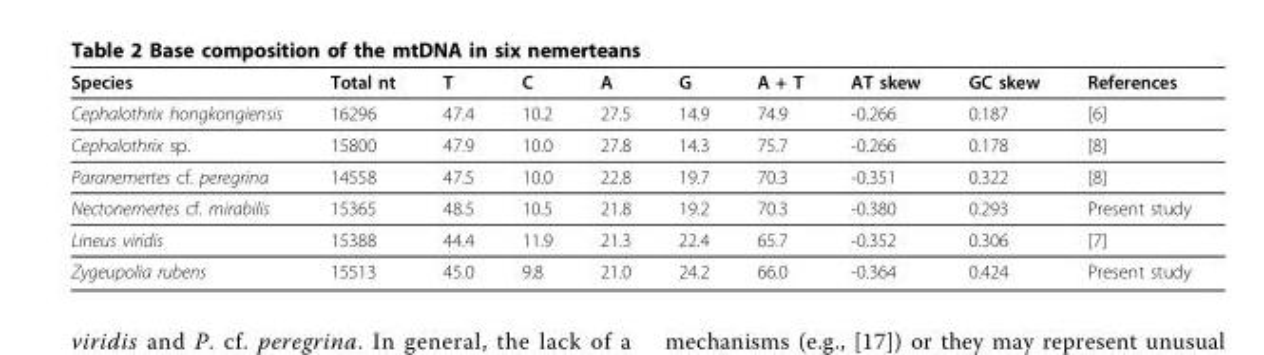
<table><thead><tr><td>Species</td><td>Total nt</td><td>T</td><td>C</td><td>A</td><td>G</td><td>A + T</td><td>AT skew</td><td>GC skew</td><td>References</td></tr></thead><tbody><tr><td>Cephalothrix hongkongiensis</td><td>16296</td><td>47.4</td><td>10.2</td><td>27.5</td><td>14.9</td><td>74.9</td><td>-0.266</td><td>0.187</td><td>[6]</td></tr><tr><td>Cephalothrix sp.</td><td>15800</td><td>47.9</td><td>10.0</td><td>27.8</td><td>14.3</td><td>75.7</td><td>-0.266</td><td>0.178</td><td>[8]</td></tr><tr><td>Paranemertes cf. peregrina</td><td>14558</td><td>47.5</td><td>10.0</td><td>22.8</td><td>19.7</td><td>70.3</td><td>-0.351</td><td>0.322</td><td>[8]</td></tr><tr><td>Nectonemertes cf. mirabilis</td><td>15365</td><td>48.5</td><td>10.5</td><td>21.8</td><td>19.2</td><td>70.3</td><td>-0.380</td><td>0.293</td><td>Present study</td></tr><tr><td>Lineus viridis</td><td>15388</td><td>44.4</td><td>11.9</td><td>21.3</td><td>22.4</td><td>65.7</td><td>-0.352</td><td>0.306</td><td>[7]</td></tr><tr><td>Zygeupolia rubens</td><td>15513</td><td>45.0</td><td>9.8</td><td>21.0</td><td>24.2</td><td>66.0</td><td>-0.364</td><td>0.424</td><td>Present study</td></tr></tbody></table>